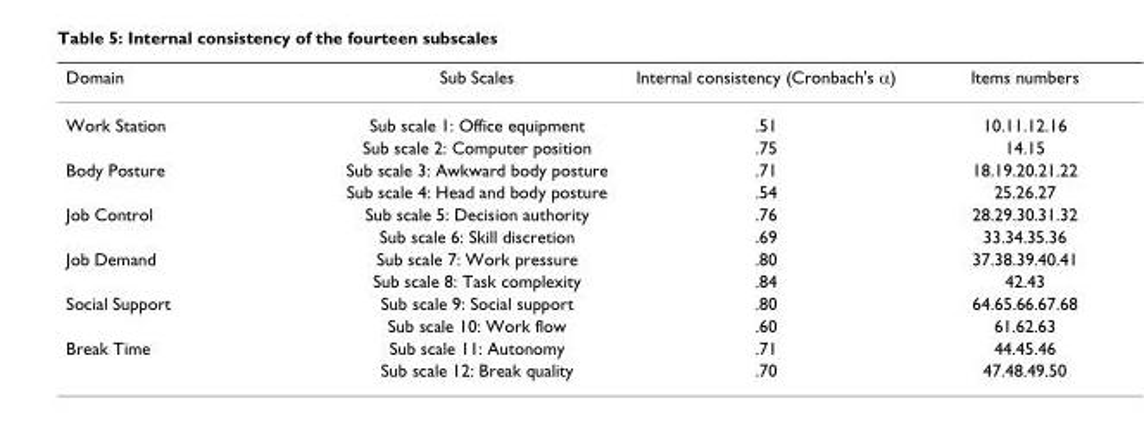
<table><thead><tr><td>Domain</td><td>Sub Scales</td><td>Internal consistency (Cronbach&#x27;s α)</td><td>Items numbers</td></tr></thead><tbody><tr><td rowspan="2">Work Station</td><td>Sub scale 1: Office equipment</td><td>.51</td><td>10.11.12.16</td></tr><tr><td>Sub scale 2: Computer position</td><td>.75</td><td>14.15</td></tr><tr><td rowspan="2">Body Posture</td><td>Sub scale 3: Awkward body posture</td><td>.71</td><td>18.19.20.21.22</td></tr><tr><td>Sub scale 4: Head and body posture</td><td>.54</td><td>25.26.27</td></tr><tr><td rowspan="2">Job Control</td><td>Sub scale 5: Decision authority</td><td>.76</td><td>28.29.30.31.32</td></tr><tr><td>Sub scale 6: Skill discretion</td><td>.69</td><td>33.34.35.36</td></tr><tr><td rowspan="2">Job Demand</td><td>Sub scale 7: Work pressure</td><td>.80</td><td>37.38.39.40.41</td></tr><tr><td>Sub scale 8: Task complexity</td><td>.84</td><td>42.43</td></tr><tr><td rowspan="2">Social Support</td><td>Sub scale 9: Social support</td><td>.80</td><td>64.65.66.67.68</td></tr><tr><td>Sub scale 10: Work flow</td><td>.60</td><td>61.62.63</td></tr><tr><td rowspan="2">Break Time</td><td>Sub scale 11: Autonomy</td><td>.71</td><td>44.45.46</td></tr><tr><td>Sub scale 12: Break quality</td><td>.70</td><td>47.48.49.50</td></tr></tbody></table>